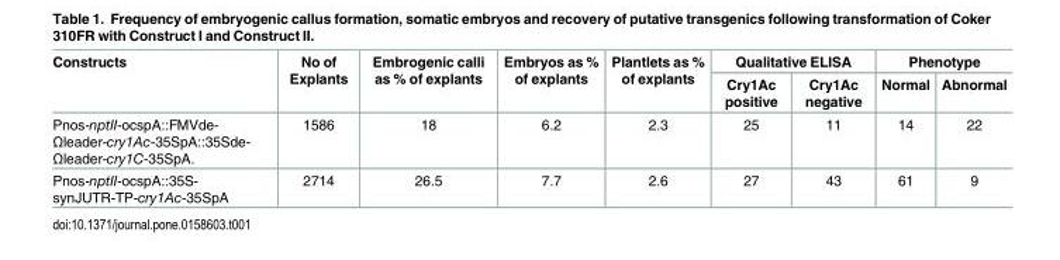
<table><thead><tr><td rowspan="2">Constructs</td><td rowspan="2">No of Explants</td><td rowspan="2">Embrogenic calli as % of explants</td><td rowspan="2">Embryos as % of explants</td><td rowspan="2">Plantlets as % of explants</td><td colspan="2">Qualitative ELISA</td><td colspan="2">Phenotype</td></tr><tr><td>Cry1Ac positive</td><td>Cry1Ac negative</td><td>Normal</td><td>Abnormal</td></tr></thead><tbody><tr><td>Pnos-nptII-ocspA::FMVde- Ωleader-cry1Ac-35SpA::35Sde- Ωleader-cry1C-35SpA.</td><td>1586</td><td>18</td><td>6.2</td><td>2.3</td><td>25</td><td>11</td><td>14</td><td>22</td></tr><tr><td>Pnos-nptII-ocspA::35S- synJUTR-TP-cry1Ac-35SpA</td><td>2714</td><td>26.5</td><td>7.7</td><td>2.6</td><td>27</td><td>43</td><td>61</td><td>9</td></tr></tbody></table>